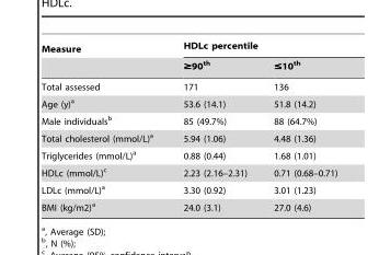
<table><thead><tr><td rowspan="2">Measure</td><td colspan="2">HDLc percentile</td></tr><tr><td>≥90<sup>th</sup></td><td>≤10<sup>th</sup></td></tr></thead><tbody><tr><td>Total assessed</td><td>171</td><td>136</td></tr><tr><td>Age (y)<sup>a</sup></td><td>53.6 (14.1)</td><td>51.8 (14.2)</td></tr><tr><td>Male individuals<sup>b</sup></td><td>85 (49.7%)</td><td>88 (64.7%)</td></tr><tr><td>Total cholesterol (mmol/L)<sup>a</sup></td><td>5.94 (1.06)</td><td>4.48 (1.36)</td></tr><tr><td>Triglycerides (mmol/L)<sup>a</sup></td><td>0.88 (0.44)</td><td>1.68 (1.01)</td></tr><tr><td>HDLc (mmol/L)<sup>c</sup></td><td>2.23 (2.16–2.31)</td><td>0.71 (0.68–0.71)</td></tr><tr><td>LDLc (mmol/L)<sup>a</sup></td><td>3.30 (0.92)</td><td>3.01 (1.23)</td></tr><tr><td>BMI (kg/m2)<sup>a</sup></td><td>24.0 (3.1)</td><td>27.0 (4.6)</td></tr></tbody></table>